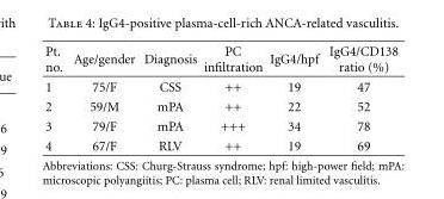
<table><thead><tr><td>Pt. no.</td><td>Age/gender</td><td>Diagnosis</td><td>PC infiltration</td><td>IgG4/hpf</td><td>IgG4/CD138 ratio (%)</td></tr></thead><tbody><tr><td>1</td><td>75/F</td><td>CSS</td><td>++</td><td>19</td><td>47</td></tr><tr><td>2</td><td>59/M</td><td>mPA</td><td>++</td><td>22</td><td>52</td></tr><tr><td>3</td><td>79/F</td><td>mPA</td><td>+++</td><td>34</td><td>78</td></tr><tr><td>4</td><td>67/F</td><td>RLV</td><td>++</td><td>19</td><td>69</td></tr></tbody></table>